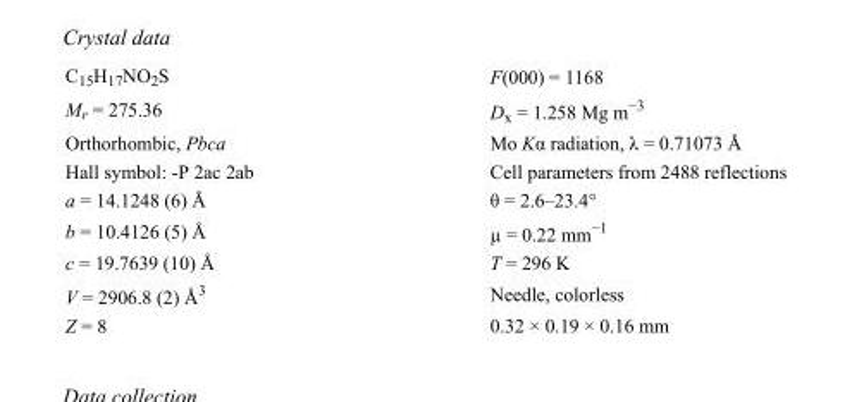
<table><tbody><tr><td>C<sub>15</sub>H<sub>17</sub>NO<sub>2</sub>S</td><td>F(000) = 1168</td></tr><tr><td>M<sub>r</sub> = 275.36</td><td>D<sub>x</sub> = 1.258 Mg m<sup>−3</sup></td></tr><tr><td>Orthorhombic, Pbca</td><td>Mo Kα radiation, λ = 0.71073 Å</td></tr><tr><td>Hall symbol: -P 2ac 2ab</td><td>Cell parameters from 2488 reflections</td></tr><tr><td>a = 14.1248 (6) Å</td><td>θ = 2.6–23.4°</td></tr><tr><td>b = 10.4126 (5) Å</td><td>µ = 0.22 mm<sup>−1</sup></td></tr><tr><td>c = 19.7639 (10) Å</td><td>T = 296 K</td></tr><tr><td>V = 2906.8 (2) Å<sup>3</sup></td><td>Needle, colorless</td></tr><tr><td>Z = 8</td><td>0.32 × 0.19 × 0.16 mm</td></tr></tbody></table>